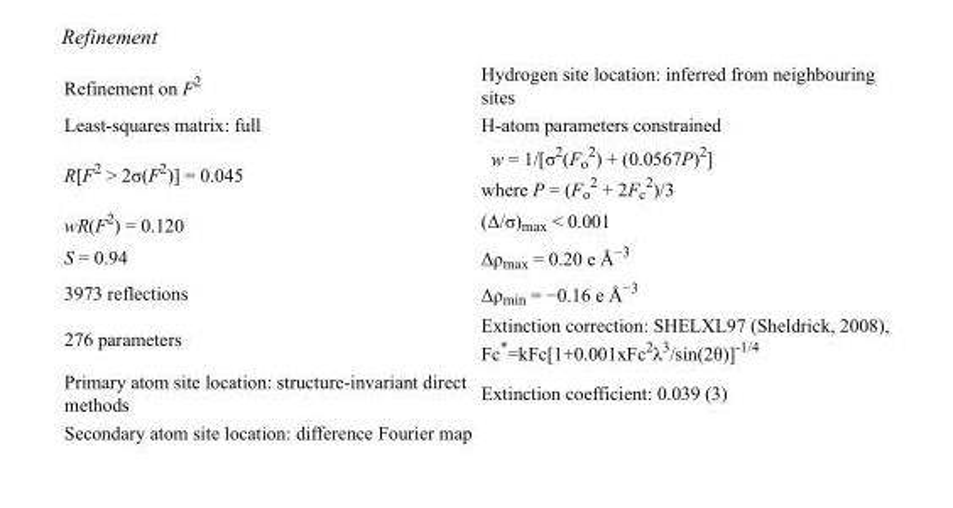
<table><tbody><tr><td>Refinement on F<sup>2</sup></td><td>Hydrogen site location: inferred from neighbouring sites</td></tr><tr><td>Least-squares matrix: full</td><td>H-atom parameters constrained</td></tr><tr><td>R[F<sup>2</sup> &gt; 2σ(F<sup>2</sup>)] = 0.045</td><td>w = 1/[σ<sup>2</sup>(F<sub>o</sub> <sup>2</sup>) + (0.0567P)<sup>2</sup>] where P = (F<sub>o</sub> <sup>2</sup> + 2F<sub>c</sub> <sup>2</sup>)/3</td></tr><tr><td>wR(F<sup>2</sup>) = 0.120</td><td>(Δ/σ)<sub>max</sub> &lt; 0.001</td></tr><tr><td>S = 0.94</td><td>Δρ<sub>max</sub> = 0.20 e Å<sup>−3</sup></td></tr><tr><td>3973 reflections</td><td>Δρ<sub>min</sub> = −0.16 e Å<sup>−3</sup></td></tr><tr><td>276 parameters</td><td>Extinction correction: SHELXL97 (Sheldrick, 2008), Fc*=kFc[1+0.001xFc<sup>2</sup>λ<sup>3</sup>/sin(2θ)]<sup>-1/4</sup></td></tr><tr><td>Primary atom site location: structure-invariant direct methods</td><td>Extinction coefficient: 0.039 (3)</td></tr><tr><td>Secondary atom site location: difference Fourier map</td><td></td></tr></tbody></table>